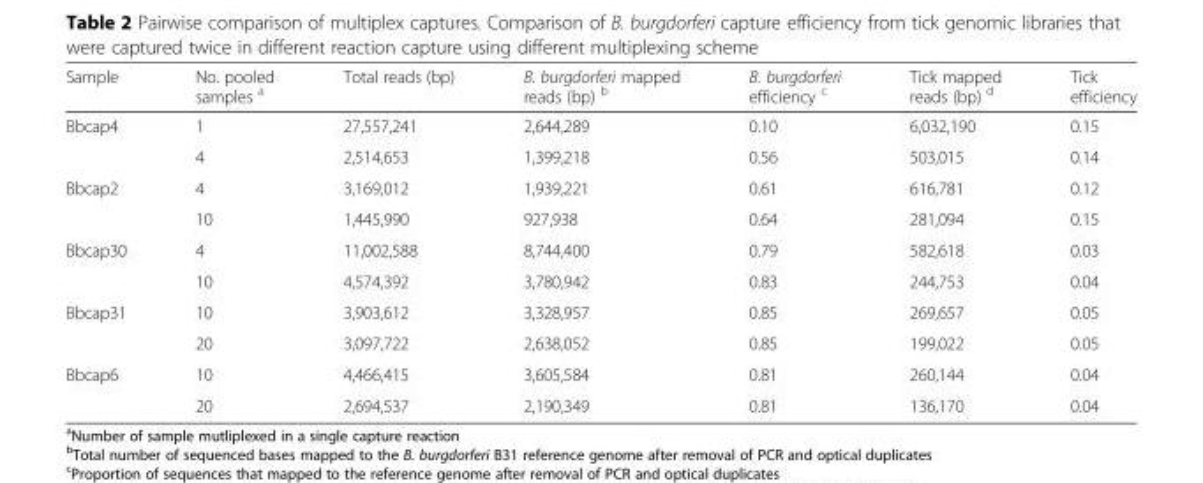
<table><thead><tr><td>Sample</td><td>No. pooled samples <sup>a</sup></td><td>Total reads (bp)</td><td>B. burgdorferi mapped reads (bp) <sup>b</sup></td><td>B. burgdorferi efficiency <sup>c</sup></td><td>Tick mapped reads (bp) <sup>d</sup></td><td>Tick efficiency</td></tr></thead><tbody><tr><td rowspan="2">Bbcap4</td><td>1</td><td>27,557,241</td><td>2,644,289</td><td>0.10</td><td>6,032,190</td><td>0.15</td></tr><tr><td>4</td><td>2,514,653</td><td>1,399,218</td><td>0.56</td><td>503,015</td><td>0.14</td></tr><tr><td rowspan="2">Bbcap2</td><td>4</td><td>3,169,012</td><td>1,939,221</td><td>0.61</td><td>616,781</td><td>0.12</td></tr><tr><td>10</td><td>1,445,990</td><td>927,938</td><td>0.64</td><td>281,094</td><td>0.15</td></tr><tr><td rowspan="2">Bbcap30</td><td>4</td><td>11,002,588</td><td>8,744,400</td><td>0.79</td><td>582,618</td><td>0.03</td></tr><tr><td>10</td><td>4,574,392</td><td>3,780,942</td><td>0.83</td><td>244,753</td><td>0.04</td></tr><tr><td rowspan="2">Bbcap31</td><td>10</td><td>3,903,612</td><td>3,328,957</td><td>0.85</td><td>269,657</td><td>0.05</td></tr><tr><td>20</td><td>3,097,722</td><td>2,638,052</td><td>0.85</td><td>199,022</td><td>0.05</td></tr><tr><td rowspan="2">Bbcap6</td><td>10</td><td>4,466,415</td><td>3,605,584</td><td>0.81</td><td>260,144</td><td>0.04</td></tr><tr><td>20</td><td>2,694,537</td><td>2,190,349</td><td>0.81</td><td>136,170</td><td>0.04</td></tr></tbody></table>